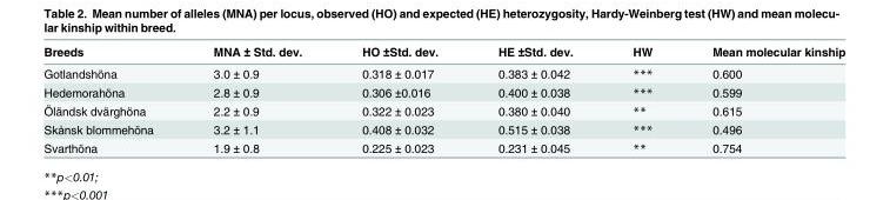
<table><thead><tr><td>Breeds</td><td>MNA ± Std. dev.</td><td>HO ±Std. dev.</td><td>HE ±Std. dev.</td><td>HW</td><td>Mean molecular kinship</td></tr></thead><tbody><tr><td>Gotlandshöna</td><td>3.0 ± 0.9</td><td>0.318 ± 0.017</td><td>0.383 ± 0.042</td><td>***</td><td>0.600</td></tr><tr><td>Hedemorahöna</td><td>2.8 ± 0.9</td><td>0.306 ±0.016</td><td>0.400 ± 0.038</td><td>***</td><td>0.599</td></tr><tr><td>Öländsk dvärghöna</td><td>2.2 ± 0.9</td><td>0.322 ± 0.023</td><td>0.380 ± 0.040</td><td>**</td><td>0.615</td></tr><tr><td>Skånsk blommehöna</td><td>3.2 ± 1.1</td><td>0.408 ± 0.032</td><td>0.515 ± 0.038</td><td>***</td><td>0.496</td></tr><tr><td>Svarthöna</td><td>1.9 ± 0.8</td><td>0.225 ± 0.023</td><td>0.231 ± 0.045</td><td>**</td><td>0.754</td></tr></tbody></table>